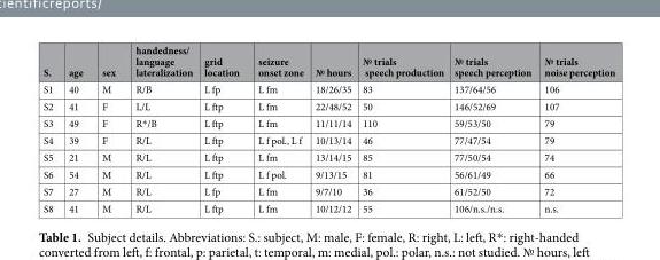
<table><thead><tr><td>S.</td><td>age</td><td>sex</td><td>handedness/ language lateralization</td><td>grid location</td><td>seizure onset zone</td><td>№ hours</td><td>№ trials speech production</td><td>№ trials speech perception</td><td>№ trials noise perception</td></tr></thead><tbody><tr><td>S1</td><td>40</td><td>M</td><td>R/B</td><td>L fp</td><td>L fm</td><td>18/26/35</td><td>83</td><td>137/64/56</td><td>106</td></tr><tr><td>S2</td><td>41</td><td>F</td><td>L/L</td><td>L ftp</td><td>L fm</td><td>22/48/52</td><td>50</td><td>146/52/69</td><td>107</td></tr><tr><td>S3</td><td>49</td><td>F</td><td>R*/B</td><td>L ftp</td><td>L fm</td><td>11/11/14</td><td>110</td><td>59/53/50</td><td>79</td></tr><tr><td>S4</td><td>39</td><td>F</td><td>R/L</td><td>L ftp</td><td>L f pol., L f</td><td>10/13/14</td><td>46</td><td>77/47/54</td><td>79</td></tr><tr><td>S5</td><td>21</td><td>M</td><td>R/L</td><td>L ftp</td><td>L fm</td><td>13/14/15</td><td>85</td><td>77/50/54</td><td>74</td></tr><tr><td>S6</td><td>54</td><td>M</td><td>R/L</td><td>L ftp</td><td>L f pol.</td><td>9/13/15</td><td>81</td><td>56/61/49</td><td>66</td></tr><tr><td>S7</td><td>27</td><td>M</td><td>R/L</td><td>L fp</td><td>L fm</td><td>9/7/10</td><td>36</td><td>61/52/50</td><td>72</td></tr><tr><td>S8</td><td>41</td><td>M</td><td>R/L</td><td>L ftp</td><td>L fm</td><td>10/12/12</td><td>55</td><td>106/n.s./n.s.</td><td>n.s.</td></tr></tbody></table>